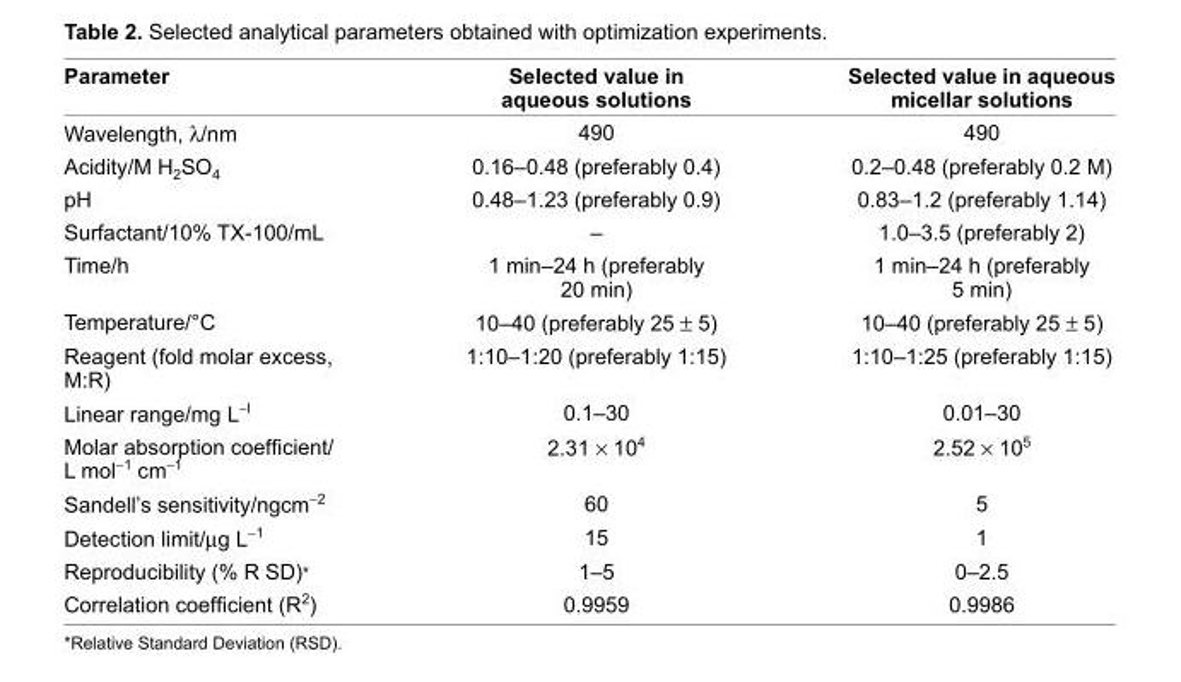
<table><thead><tr><td>Parameter</td><td>Selected value in aqueous solutions</td><td>Selected value in aqueous micellar solutions</td></tr></thead><tbody><tr><td>Wavelength, λ/nm</td><td>490</td><td>490</td></tr><tr><td>Acidity/M H<sub>2</sub>SO<sub>4</sub></td><td>0.16–0.48 (preferably 0.4)</td><td>0.2–0.48 (preferably 0.2 M)</td></tr><tr><td>pH</td><td>0.48–1.23 (preferably 0.9)</td><td>0.83–1.2 (preferably 1.14)</td></tr><tr><td>Surfactant/10% TX-100/mL</td><td>–</td><td>1.0–3.5 (preferably 2)</td></tr><tr><td>Time/h</td><td>1 min–24 h (preferably 20 min)</td><td>1 min–24 h (preferably 5 min)</td></tr><tr><td>Temperature/°C</td><td>10–40 (preferably 25 ± 5)</td><td>10–40 (preferably 25 ± 5)</td></tr><tr><td>Reagent (fold molar excess, M:R)</td><td>1:10–1:20 (preferably 1:15)</td><td>1:10–1:25 (preferably 1:15)</td></tr><tr><td>Linear range/mg L<sup>−</sup><sub>l</sub></td><td>0.1–30</td><td>0.01–30</td></tr><tr><td>Molar absorption coeffi cient/ L mol<sup>−1</sup> cm<sup>−</sup><sub>1</sub></td><td>2.31 × 10<sup>4</sup></td><td>2.52 × 10<sup>5</sup></td></tr><tr><td>Sandell’s sensitivity/ngcm<sup>−</sup><sub>2</sub></td><td>60</td><td>5</td></tr><tr><td>Detection limit/μg L<sup>−</sup><sub>1</sub></td><td>15</td><td>1</td></tr><tr><td>Reproducibility (% R SD)*</td><td>1–5</td><td>0–2.5</td></tr><tr><td>Correlation coeffi cient (R<sup>2</sup>)</td><td>0.9959</td><td>0.9986</td></tr></tbody></table>